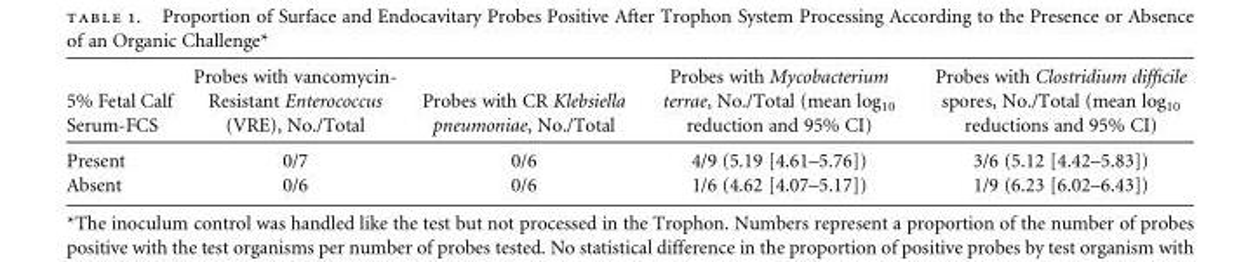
<table><thead><tr><td>5% Fetal Calf Serum-FCS</td><td>Probes with vancomycin- Resistant Enterococcus (VRE), No./Total</td><td>Probes with CR Klebsiella pneumoniae, No./Total</td><td>Probes with Mycobacterium terrae, No./Total (mean log<sub>10</sub> reduction and 95% CI)</td><td>Probes with Clostridium difficile spores, No./Total (mean log<sub>10</sub> reductions and 95% CI)</td></tr></thead><tbody><tr><td>Present</td><td>0/7</td><td>0/6</td><td>4/9 (5.19 [4.61–5.76])</td><td>3/6 (5.12 [4.42–5.83])</td></tr><tr><td>Absent</td><td>0/6</td><td>0/6</td><td>1/6 (4.62 [4.07–5.17])</td><td>1/9 (6.23 [6.02–6.43])</td></tr></tbody></table>